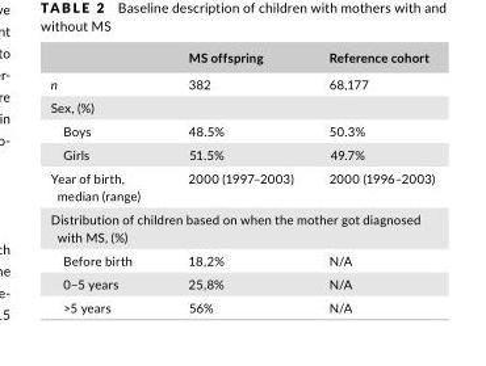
<table><thead><tr><td></td><td>MS offspring</td><td>Reference cohort</td></tr></thead><tbody><tr><td>n</td><td>382</td><td>68,177</td></tr><tr><td colspan="3">Sex, (%)</td></tr><tr><td>Boys</td><td>48.5%</td><td>50.3%</td></tr><tr><td>Girls</td><td>51.5%</td><td>49.7%</td></tr><tr><td>Year of birth, median (range)</td><td>2000 (1997–2003)</td><td>2000 (1996–2003)</td></tr><tr><td colspan="3">Distribution of children based on when the mother got diagnosed with MS, (%)</td></tr><tr><td>Before birth</td><td>18,2%</td><td>N/A</td></tr><tr><td>0–5 years</td><td>25,8%</td><td>N/A</td></tr><tr><td>&gt;5 years</td><td>56%</td><td>N/A</td></tr></tbody></table>